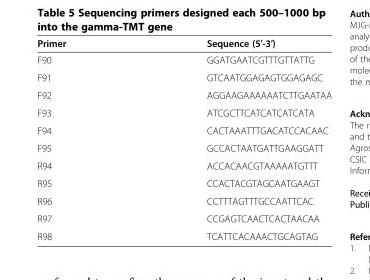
<table><thead><tr><td>Primer</td><td>Sequence (5′-3′)</td></tr></thead><tbody><tr><td>F90</td><td>GGATGAATCGTTTGTTATTG</td></tr><tr><td>F91</td><td>GTCAATGGAGAGTGGAGAGC</td></tr><tr><td>F92</td><td>AGGAAGAAAAAATCTTGAATAA</td></tr><tr><td>F93</td><td>ATCGCTTCATCATCATCATA</td></tr><tr><td>F94</td><td>CACTAAATTTGACATCCACAAC</td></tr><tr><td>F95</td><td>GCCACTAATGATTGAAGGATT</td></tr><tr><td>R94</td><td>ACCACAACGTAAAAATGTTT</td></tr><tr><td>R95</td><td>CCACTACGTAGCAATGAAGT</td></tr><tr><td>R96</td><td>CCTTTAGTTTGCCAATTCAC</td></tr><tr><td>R97</td><td>CCGAGTCAACTCACTAACAA</td></tr><tr><td>R98</td><td>TCATTCACAAACTGCAGTAG</td></tr></tbody></table>